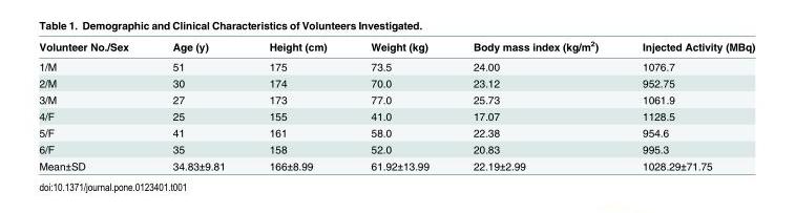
<table><thead><tr><td>Volunteer No./Sex</td><td>Age (y)</td><td>Height (cm)</td><td>Weight (kg)</td><td>Body mass index (kg/m<sup>2</sup>)</td><td>Injected Activity (MBq)</td></tr></thead><tbody><tr><td>1/M</td><td>51</td><td>175</td><td>73.5</td><td>24.00</td><td>1076.7</td></tr><tr><td>2/M</td><td>30</td><td>174</td><td>70.0</td><td>23.12</td><td>952.75</td></tr><tr><td>3/M</td><td>27</td><td>173</td><td>77.0</td><td>25.73</td><td>1061.9</td></tr><tr><td>4/F</td><td>25</td><td>155</td><td>41.0</td><td>17.07</td><td>1128.5</td></tr><tr><td>5/F</td><td>41</td><td>161</td><td>58.0</td><td>22.38</td><td>954.6</td></tr><tr><td>6/F</td><td>35</td><td>158</td><td>52.0</td><td>20.83</td><td>995.3</td></tr><tr><td>Mean±SD</td><td>34.83±9.81</td><td>166±8.99</td><td>61.92±13.99</td><td>22.19±2.99</td><td>1028.29±71.75</td></tr></tbody></table>